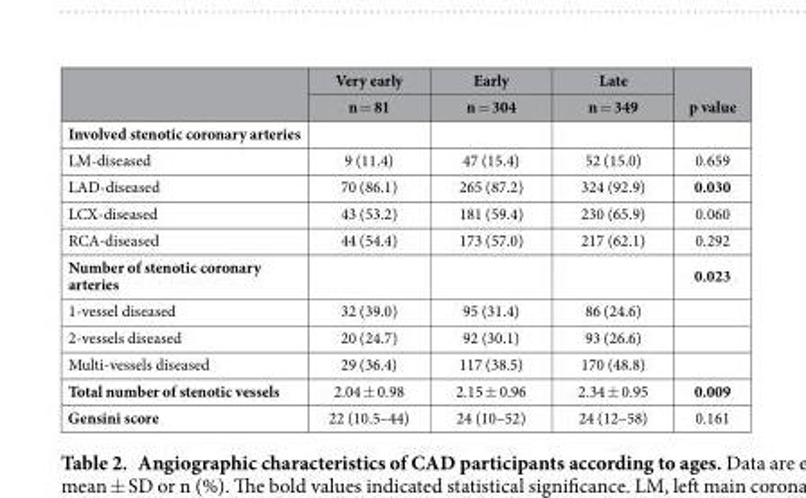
<table><thead><tr><td rowspan="2"></td><td rowspan="2">Very early n = 81</td><td rowspan="2">Early n = 304</td><td rowspan="2">Late n = 349</td><td rowspan="2">p value</td></tr><tr></tr></thead><tbody><tr><td colspan="5">Involved stenotic coronary arteries</td></tr><tr><td>LM-diseased</td><td>9 (11.4)</td><td>47 (15.4)</td><td>52 (15.0)</td><td>0.659</td></tr><tr><td>LAD-diseased</td><td>70 (86.1)</td><td>265 (87.2)</td><td>324 (92.9)</td><td>0.030</td></tr><tr><td>LCX-diseased</td><td>43 (53.2)</td><td>181 (59.4)</td><td>230 (65.9)</td><td>0.060</td></tr><tr><td>RCA-diseased</td><td>44 (54.4)</td><td>173 (57.0)</td><td>217 (62.1)</td><td>0.292</td></tr><tr><td>Number of stenotic coronary arteries</td><td></td><td></td><td></td><td>0.023</td></tr><tr><td>1-vessel diseased</td><td>32 (39.0)</td><td>95 (31.4)</td><td>86 (24.6)</td><td></td></tr><tr><td>2-vessels diseased</td><td>20 (24.7)</td><td>92 (30.1)</td><td>93 (26.6)</td><td></td></tr><tr><td>Multi-vessels diseased</td><td>29 (36.4)</td><td>117 (38.5)</td><td>170 (48.8)</td><td></td></tr><tr><td>Total number of stenotic vessels</td><td>2.04 ± 0.98</td><td>2.15 ± 0.96</td><td>2.34 ± 0.95</td><td>0.009</td></tr><tr><td>Gensini score</td><td>22 (10.5–44)</td><td>24 (10–52)</td><td>24 (12–58)</td><td>0.161</td></tr></tbody></table>